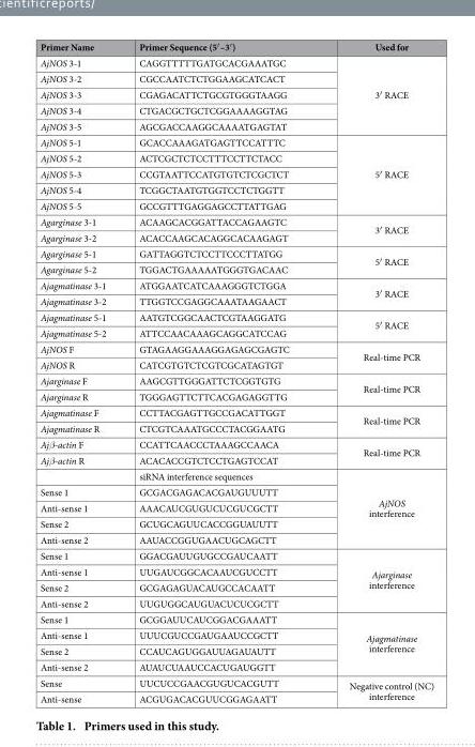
<table><thead><tr><td>Primer Name</td><td>Primer Sequence (5′ –3′ )</td><td>Used for</td></tr></thead><tbody><tr><td>AjNOS 3-1</td><td>CAGGTTTTTGATGCACGAAATGC</td><td rowspan="5">3′ RACE</td></tr><tr><td>AjNOS 3-2</td><td>CGCCAATCTCTGGAAGCATCACT</td></tr><tr><td>AjNOS 3-3</td><td>CGAGACATTCTGCGTGGGTAAGG</td></tr><tr><td>AjNOS 3-4</td><td>CTGACGCTGCTCGGAAAAGGTAG</td></tr><tr><td>AjNOS 3-5</td><td>AGCGACCAAGGCAAAATGAGTAT</td></tr><tr><td>AjNOS 5-1</td><td>GCACCAAAGATGAGTTCCATTTC</td><td rowspan="5">5′ RACE</td></tr><tr><td>AjNOS 5-2</td><td>ACTCGCTCTCCTTTCCTTCTACC</td></tr><tr><td>AjNOS 5-3</td><td>CCGTAATTCCATGTGTCTCGCTCT</td></tr><tr><td>AjNOS 5-4</td><td>TCGGCTAATGTGGTCCTCTGGTT</td></tr><tr><td>AjNOS 5-5</td><td>GCCGTTTGAGGAGCCTTATTGAG</td></tr><tr><td>Agarginase 3-1</td><td>ACAAGCACGGATTACCAGAAGTC</td><td rowspan="2">3′ RACE</td></tr><tr><td>Agarginase 3-2</td><td>ACACCAAGCACAGGCACAAGAGT</td></tr><tr><td>Agarginase 5-1</td><td>GATTAGGTCTCCTTCCCTTATGG</td><td rowspan="2">5′ RACE</td></tr><tr><td>Agarginase 5-2</td><td>TGGACTGAAAAATGGGTGACAAC</td></tr><tr><td>Ajagmatinase 3-1</td><td>ATGGAATCATCAAAGGGTCTGGA</td><td rowspan="2">3′ RACE</td></tr><tr><td>Ajagmatinase 3-2</td><td>TTGGTCCGAGGCAAATAAGAACT</td></tr><tr><td>Ajagmatinase 5-1</td><td>AATGTCGGCAACTCGTAAGGATG</td><td rowspan="2">5′ RACE</td></tr><tr><td>Ajagmatinase 5-2</td><td>ATTCCAACAAAGCAGGCATCCAG</td></tr><tr><td>AjNOS F</td><td>GTAGAAGGAAAGGAGAGCGAGTC</td><td rowspan="2">Real-time PCR</td></tr><tr><td>AjNOS R</td><td>CATCGTGTCTCGTCGCATAGTGT</td></tr><tr><td>Ajarginase F</td><td>AAGCGTTGGGATTCTCGGTGTG</td><td rowspan="2">Real-time PCR</td></tr><tr><td>Ajarginase R</td><td>TGGGAGTTCTTCACGAGAGGTTG</td></tr><tr><td>Ajagmatinase F</td><td>CCTTACGAGTTGCCGACATTGGT</td><td rowspan="2">Real-time PCR</td></tr><tr><td>Ajagmatinase R</td><td>CTCGTCAAATGCCCTACGGAATG</td></tr><tr><td>Ajβ-actin F</td><td>CCATTCAACCCTAAAGCCAACA</td><td rowspan="2">Real-time PCR</td></tr><tr><td rowspan="2">Ajβ-actin R</td><td>ACACACCGTCTCCTGAGTCCAT</td></tr><tr><td>siRNA interference sequences</td><td rowspan="5">AjNOS interference</td></tr><tr><td>Sense 1</td><td>GCGACGAGACACGAUGUUUTT</td></tr><tr><td>Anti-sense 1</td><td>AAACAUCGUGUCUCGUCGCTT</td></tr><tr><td>Sense 2</td><td>GCUGCAGUUCACCGGUAUUTT</td></tr><tr><td>Anti-sense 2</td><td>AAUACCGGUGAACUGCAGCTT</td></tr><tr><td>Sense 1</td><td>GGACGAUUGUGCCGAUCAATT</td><td rowspan="4">Ajarginase interference</td></tr><tr><td>Anti-sense 1</td><td>UUGAUCGGCACAAUCGUCCTT</td></tr><tr><td>Sense 2</td><td>GCGAGAGUACAUGCCACAATT</td></tr><tr><td>Anti-sense 2</td><td>UUGUGGCAUGUACUCUCGCTT</td></tr><tr><td>Sense 1</td><td>GCGGAUUCAUCGGACGAAATT</td><td rowspan="4">Ajagmatinase interference</td></tr><tr><td>Anti-sense 1</td><td>UUUCGUCCGAUGAAUCCGCTT</td></tr><tr><td>Sense 2</td><td>CCAUCAGUGGAUUAGAUAUTT</td></tr><tr><td>Anti-sense 2</td><td>AUAUCUAAUCCACUGAUGGTT</td></tr><tr><td>Sense</td><td>UUCUCCGAACGUGUCACGUTT</td><td rowspan="2">Negative control (NC) interference</td></tr><tr><td>Anti-sense</td><td>ACGUGACACGUUCGGAGAATT</td></tr></tbody></table>